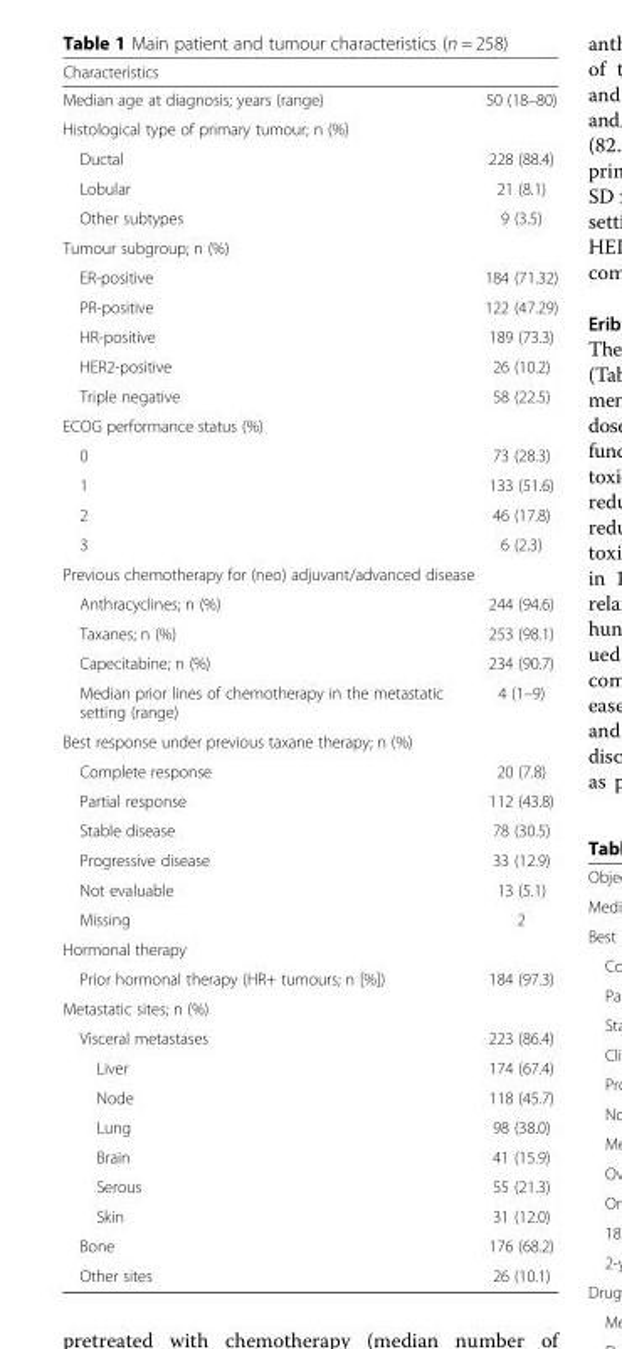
<table><thead><tr><td colspan="2">Characteristics</td></tr><tr><td>Median age at diagnosis; years (range)</td><td>50 (18–80)</td></tr></thead><tbody><tr><td colspan="2">Histological type of primary tumour; n (%)</td></tr><tr><td>Ductal</td><td>228 (88.4)</td></tr><tr><td>Lobular</td><td>21 (8.1)</td></tr><tr><td>Other subtypes</td><td>9 (3.5)</td></tr><tr><td colspan="2">Tumour subgroup; n (%)</td></tr><tr><td>ER-positive</td><td>184 (71.32)</td></tr><tr><td>PR-positive</td><td>122 (47.29)</td></tr><tr><td>HR-positive</td><td>189 (73.3)</td></tr><tr><td>HER2-positive</td><td>26 (10.2)</td></tr><tr><td>Triple negative</td><td>58 (22.5)</td></tr><tr><td colspan="2">ECOG performance status (%)</td></tr><tr><td>0</td><td>73 (28.3)</td></tr><tr><td>1</td><td>133 (51.6)</td></tr><tr><td>2</td><td>46 (17.8)</td></tr><tr><td>3</td><td>6 (2.3)</td></tr><tr><td colspan="2">Previous chemotherapy for (neo) adjuvant/advanced disease</td></tr><tr><td>Anthracyclines; n (%)</td><td>244 (94.6)</td></tr><tr><td>Taxanes; n (%)</td><td>253 (98.1)</td></tr><tr><td>Capecitabine; n (%)</td><td>234 (90.7)</td></tr><tr><td>Median prior lines of chemotherapy in the metastatic setting (range)</td><td>4 (1–9)</td></tr><tr><td colspan="2">Best response under previous taxane therapy; n (%)</td></tr><tr><td>Complete response</td><td>20 (7.8)</td></tr><tr><td>Partial response</td><td>112 (43.8)</td></tr><tr><td>Stable disease</td><td>78 (30.5)</td></tr><tr><td>Progressive disease</td><td>33 (12.9)</td></tr><tr><td>Not evaluable</td><td>13 (5.1)</td></tr><tr><td>Missing</td><td>2</td></tr><tr><td colspan="2">Hormonal therapy</td></tr><tr><td>Prior hormonal therapy (HR+ tumours; n [%])</td><td>184 (97.3)</td></tr><tr><td colspan="2">Metastatic sites; n (%)</td></tr><tr><td>Visceral metastases</td><td>223 (86.4)</td></tr><tr><td>Liver</td><td>174 (67.4)</td></tr><tr><td>Node</td><td>118 (45.7)</td></tr><tr><td>Lung</td><td>98 (38.0)</td></tr><tr><td>Brain</td><td>41 (15.9)</td></tr><tr><td>Serous</td><td>55 (21.3)</td></tr><tr><td>Skin</td><td>31 (12.0)</td></tr><tr><td>Bone</td><td>176 (68.2)</td></tr><tr><td>Other sites</td><td>26 (10.1)</td></tr></tbody></table>